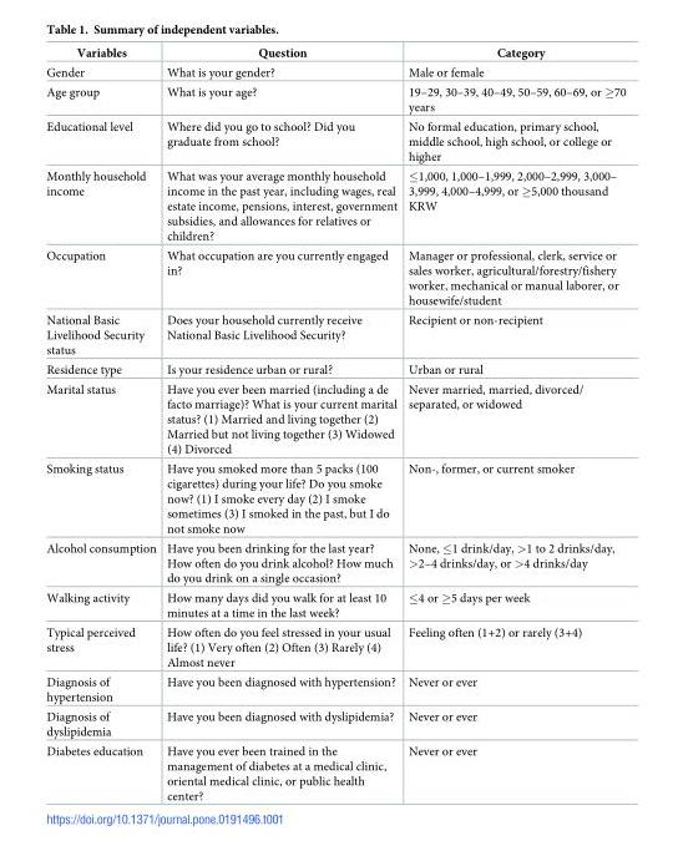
<table><thead><tr><td>Variables</td><td>Question</td><td>Category</td></tr></thead><tbody><tr><td>Gender</td><td>What is your gender?</td><td>Male or female</td></tr><tr><td>Age group</td><td>What is your age?</td><td>19–29, 30–39, 40–49, 50–59, 60–69, or ≥70 years</td></tr><tr><td>Educational level</td><td>Where did you go to school? Did you graduate from school?</td><td>No formal education, primary school, middle school, high school, or college or higher</td></tr><tr><td>Monthly household income</td><td>What was your average monthly household income in the past year, including wages, real estate income, pensions, interest, government subsidies, and allowances for relatives or children?</td><td>≤1,000, 1,000–1,999, 2,000–2,999, 3,000– 3,999, 4,000–4,999, or ≥5,000 thousand KRW</td></tr><tr><td>Occupation</td><td>What occupation are you currently engaged in?</td><td>Manager or professional, clerk, service or sales worker, agricultural/forestry/fishery worker, mechanical or manual laborer, or housewife/student</td></tr><tr><td>National Basic Livelihood Security status</td><td>Does your household currently receive National Basic Livelihood Security?</td><td>Recipient or non-recipient</td></tr><tr><td>Residence type</td><td>Is your residence urban or rural?</td><td>Urban or rural</td></tr><tr><td>Marital status</td><td>Have you ever been married (including a de facto marriage)? What is your current marital status? (1) Married and living together (2) Married but not living together (3) Widowed (4) Divorced</td><td>Never married, married, divorced/ separated, or widowed</td></tr><tr><td>Smoking status</td><td>Have you smoked more than 5 packs (100 cigarettes) during your life? Do you smoke now? (1) I smoke every day (2) I smoke sometimes (3) I smoked in the past, but I do not smoke now</td><td>Non-, former, or current smoker</td></tr><tr><td>Alcohol consumption</td><td>Have you been drinking for the last year? How often do you drink alcohol? How much do you drink on a single occasion?</td><td>None, ≤1 drink/day, &gt;1 to 2 drinks/day, &gt;2–4 drinks/day, or &gt;4 drinks/day</td></tr><tr><td>Walking activity</td><td>How many days did you walk for at least 10 minutes at a time in the last week?</td><td>≤4 or ≥5 days per week</td></tr><tr><td>Typical perceived stress</td><td>How often do you feel stressed in your usual life? (1) Very often (2) Often (3) Rarely (4) Almost never</td><td>Feeling often (1+2) or rarely (3+4)</td></tr><tr><td>Diagnosis of hypertension</td><td>Have you been diagnosed with hypertension?</td><td>Never or ever</td></tr><tr><td>Diagnosis of dyslipidemia</td><td>Have you been diagnosed with dyslipidemia?</td><td>Never or ever</td></tr><tr><td>Diabetes education</td><td>Have you ever been trained in the management of diabetes at a medical clinic, oriental medical clinic, or public health center?</td><td>Never or ever</td></tr></tbody></table>